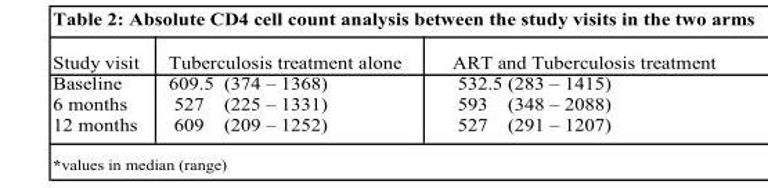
<table><thead><tr><td>Study visit</td><td>Tuberculosis treatment alone</td><td>ART and Tuberculosis treatment</td></tr></thead><tbody><tr><td>Baseline</td><td>609.5 (374 – 1368)</td><td>532.5 (283 – 1415)</td></tr><tr><td>6 months</td><td>527 (225 – 1331)</td><td>593 (348 – 2088)</td></tr><tr><td>12 months</td><td>609 (209 – 1252)</td><td>527 (291 – 1207)</td></tr></tbody></table>